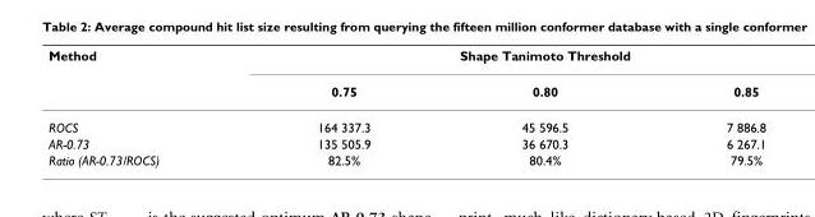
<table><thead><tr><td rowspan="2">Method</td><td colspan="3">Shape Tanimoto Threshold</td></tr><tr><td>0.75</td><td>0.80</td><td>0.85</td></tr></thead><tbody><tr><td>ROCS</td><td>164 337.3</td><td>45 596.5</td><td>7 886.8</td></tr><tr><td>AR-0.73</td><td>135 505.9</td><td>36 670.3</td><td>6 267.1</td></tr><tr><td>Ratio (AR-0.73/ROCS)</td><td>82.5%</td><td>80.4%</td><td>79.5%</td></tr></tbody></table>